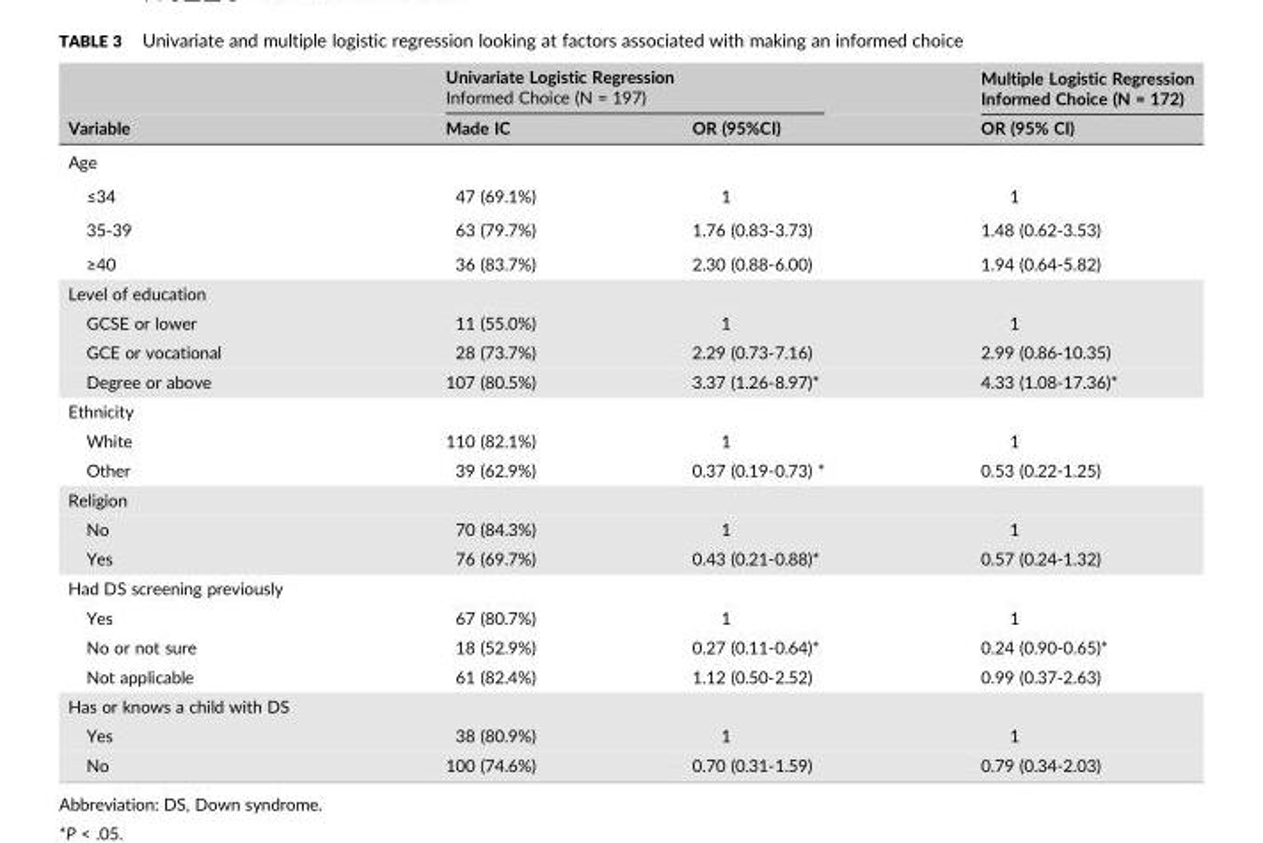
<table><thead><tr><td rowspan="2">Variable</td><td colspan="2">Univariate Logistic Regression Informed Choice (N = 197)</td><td rowspan="2">Multiple Logistic Regression Informed Choice (N = 172) OR (95% CI)</td></tr><tr><td>Made IC</td><td>OR (95%CI)</td></tr></thead><tbody><tr><td colspan="4">Age</td></tr><tr><td>≤34</td><td>47 (69.1%)</td><td>1</td><td>1</td></tr><tr><td>35‐39</td><td>63 (79.7%)</td><td>1.76 (0.83‐3.73)</td><td>1.48 (0.62‐3.53)</td></tr><tr><td>≥40</td><td>36 (83.7%)</td><td>2.30 (0.88‐6.00)</td><td>1.94 (0.64‐5.82)</td></tr><tr><td colspan="4">Level of education</td></tr><tr><td>GCSE or lower</td><td>11 (55.0%)</td><td>1</td><td>1</td></tr><tr><td>GCE or vocational</td><td>28 (73.7%)</td><td>2.29 (0.73‐7.16)</td><td>2.99 (0.86‐10.35)</td></tr><tr><td>Degree or above</td><td>107 (80.5%)</td><td>3.37 (1.26‐8.97)*</td><td>4.33 (1.08‐17.36)*</td></tr><tr><td colspan="4">Ethnicity</td></tr><tr><td>White</td><td>110 (82.1%)</td><td>1</td><td>1</td></tr><tr><td>Other</td><td>39 (62.9%)</td><td>0.37 (0.19‐0.73) *</td><td>0.53 (0.22‐1.25)</td></tr><tr><td colspan="4">Religion</td></tr><tr><td>No</td><td>70 (84.3%)</td><td>1</td><td>1</td></tr><tr><td>Yes</td><td>76 (69.7%)</td><td>0.43 (0.21‐0.88)*</td><td>0.57 (0.24‐1.32)</td></tr><tr><td colspan="4">Had DS screening previously</td></tr><tr><td>Yes</td><td>67 (80.7%)</td><td>1</td><td>1</td></tr><tr><td>No or not sure</td><td>18 (52.9%)</td><td>0.27 (0.11‐0.64)*</td><td>0.24 (0.90‐0.65)*</td></tr><tr><td>Not applicable</td><td>61 (82.4%)</td><td>1.12 (0.50‐2.52)</td><td>0.99 (0.37‐2.63)</td></tr><tr><td colspan="4">Has or knows a child with DS</td></tr><tr><td>Yes</td><td>38 (80.9%)</td><td>1</td><td>1</td></tr><tr><td>No</td><td>100 (74.6%)</td><td>0.70 (0.31‐1.59)</td><td>0.79 (0.34‐2.03)</td></tr></tbody></table>